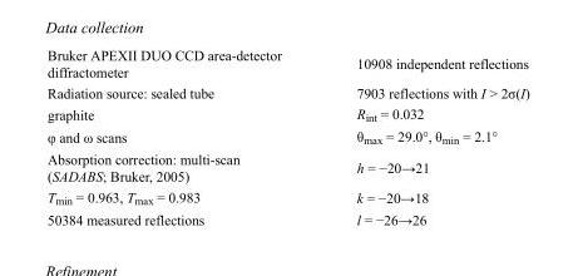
<table><tbody><tr><td>Bruker APEXII DUO CCD area-detector diffractometer</td><td>10908 independent reflections</td></tr><tr><td>Radiation source: sealed tube</td><td>7903 reflections with I &gt; 2σ(I)</td></tr><tr><td>graphite</td><td>R<sub>int</sub> = 0.032</td></tr><tr><td>φ and ω scans</td><td>θ<sub>max</sub> = 29.0°, θ<sub>min</sub> = 2.1°</td></tr><tr><td>Absorption correction: multi-scan (SADABS; Bruker, 2005)</td><td>h = −20→21</td></tr><tr><td>T<sub>min</sub> = 0.963, T<sub>max</sub> = 0.983</td><td>k = −20→18</td></tr><tr><td>50384 measured reflections</td><td>l = −26→26</td></tr></tbody></table>